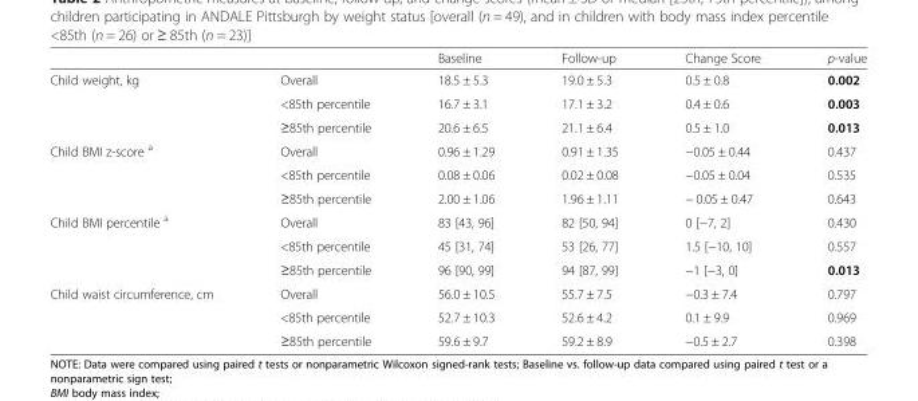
<table><thead><tr><td></td><td></td><td>Baseline</td><td>Follow-up</td><td>Change Score</td><td>p-value</td></tr></thead><tbody><tr><td rowspan="3">Child weight, kg</td><td>Overall</td><td>18.5 ± 5.3</td><td>19.0 ± 5.3</td><td>0.5 ± 0.8</td><td>0.002</td></tr><tr><td>&lt;85th percentile</td><td>16.7 ± 3.1</td><td>17.1 ± 3.2</td><td>0.4 ± 0.6</td><td>0.003</td></tr><tr><td>≥85th percentile</td><td>20.6 ± 6.5</td><td>21.1 ± 6.4</td><td>0.5 ± 1.0</td><td>0.013</td></tr><tr><td rowspan="3">Child BMI z-score <sup>a</sup></td><td>Overall</td><td>0.96 ± 1.29</td><td>0.91 ± 1.35</td><td>−0.05 ± 0.44</td><td>0.437</td></tr><tr><td>&lt;85th percentile</td><td>0.08 ± 0.06</td><td>0.02 ± 0.08</td><td>−0.05 ± 0.04</td><td>0.535</td></tr><tr><td>≥85th percentile</td><td>2.00 ± 1.06</td><td>1.96 ± 1.11</td><td>− 0.05 ± 0.47</td><td>0.643</td></tr><tr><td rowspan="3">Child BMI percentile <sup>a</sup></td><td>Overall</td><td>83 [43, 96]</td><td>82 [50, 94]</td><td>0 [−7, 2]</td><td>0.430</td></tr><tr><td>&lt;85th percentile</td><td>45 [31, 74]</td><td>53 [26, 77]</td><td>1.5 [−10, 10]</td><td>0.557</td></tr><tr><td>≥85th percentile</td><td>96 [90, 99]</td><td>94 [87, 99]</td><td>−1 [−3, 0]</td><td>0.013</td></tr><tr><td rowspan="3">Child waist circumference, cm</td><td>Overall</td><td>56.0 ± 10.5</td><td>55.7 ± 7.5</td><td>−0.3 ± 7.4</td><td>0.797</td></tr><tr><td>&lt;85th percentile</td><td>52.7 ± 10.3</td><td>52.6 ± 4.2</td><td>0.1 ± 9.9</td><td>0.969</td></tr><tr><td>≥85th percentile</td><td>59.6 ± 9.7</td><td>59.2 ± 8.9</td><td>−0.5 ± 2.7</td><td>0.398</td></tr></tbody></table>